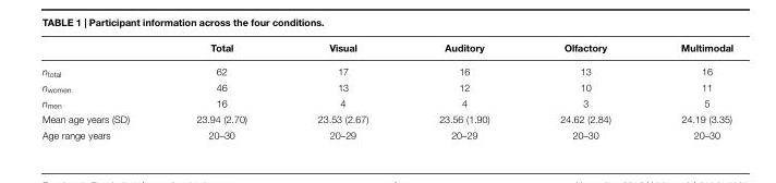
<table><thead><tr><td></td><td>Total</td><td>Visual</td><td>Auditory</td><td>Olfactory</td><td>Multimodal</td></tr></thead><tbody><tr><td>n<sub>total</sub></td><td>62</td><td>17</td><td>16</td><td>13</td><td>16</td></tr><tr><td>n<sub>women</sub></td><td>46</td><td>13</td><td>12</td><td>10</td><td>11</td></tr><tr><td>n<sub>men</sub></td><td>16</td><td>4</td><td>4</td><td>3</td><td>5</td></tr><tr><td>Mean age years (SD)</td><td>23.94 (2.70)</td><td>23.53 (2.67)</td><td>23.56 (1.90)</td><td>24.62 (2.84)</td><td>24.19 (3.35)</td></tr><tr><td>Age range years</td><td>20–30</td><td>20–29</td><td>20–29</td><td>20–30</td><td>20–30</td></tr></tbody></table>